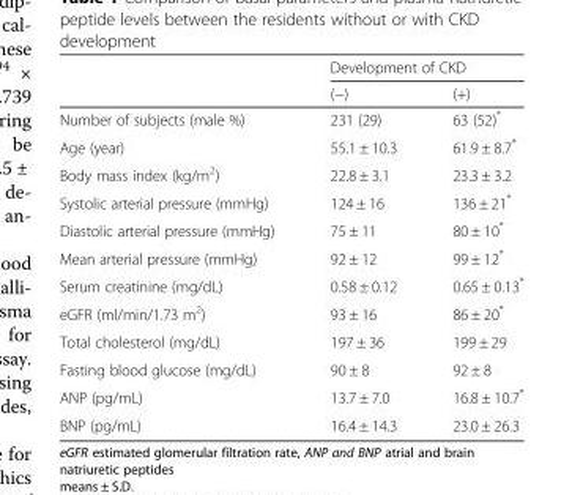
<table><thead><tr><td rowspan="2"></td><td colspan="2">Development of CKD</td></tr><tr><td>(−)</td><td>(+)</td></tr></thead><tbody><tr><td>Number of subjects (male %)</td><td>231 (29)</td><td>63 (52)*</td></tr><tr><td>Age (year)</td><td>55.1 ± 10.3</td><td>61.9 ± 8.7*</td></tr><tr><td>Body mass index (kg/m<sup>2</sup>)</td><td>22.8 ± 3.1</td><td>23.3 ± 3.2</td></tr><tr><td>Systolic arterial pressure (mmHg)</td><td>124 ± 16</td><td>136 ± 21*</td></tr><tr><td>Diastolic arterial pressure (mmHg)</td><td>75 ± 11</td><td>80 ± 10*</td></tr><tr><td>Mean arterial pressure (mmHg)</td><td>92 ± 12</td><td>99 ± 12*</td></tr><tr><td>Serum creatinine (mg/dL)</td><td>0.58 ± 0.12</td><td>0.65 ± 0.13*</td></tr><tr><td>eGFR (ml/min/1.73 m<sup>2</sup>)</td><td>93 ± 16</td><td>86 ± 20*</td></tr><tr><td>Total cholesterol (mg/dL)</td><td>197 ± 36</td><td>199 ± 29</td></tr><tr><td>Fasting blood glucose (mg/dL)</td><td>90 ± 8</td><td>92 ± 8</td></tr><tr><td>ANP (pg/mL)</td><td>13.7 ± 7.0</td><td>16.8 ± 10.7*</td></tr><tr><td>BNP (pg/mL)</td><td>16.4 ± 14.3</td><td>23.0 ± 26.3</td></tr></tbody></table>